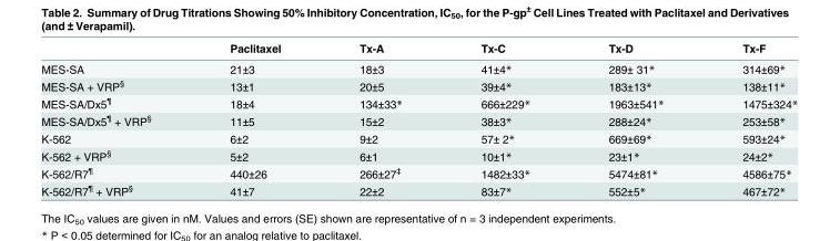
<table><thead><tr><td></td><td>Paclitaxel</td><td>Tx-A</td><td>Tx-C</td><td>Tx-D</td><td>Tx-F</td></tr></thead><tbody><tr><td>MES-SA</td><td>21±3</td><td>18±3</td><td>41±4*</td><td>289± 31*</td><td>314±69*</td></tr><tr><td>MES-SA + VRP<sup>§</sup></td><td>13±1</td><td>20±5</td><td>39±4*</td><td>183±13*</td><td>138±11*</td></tr><tr><td>MES-SA/Dx5<sup>¶</sup></td><td>18±4</td><td>134±33*</td><td>666±229*</td><td>1963±541*</td><td>1475±324*</td></tr><tr><td>MES-SA/Dx5<sup>¶</sup> + VRP<sup>§</sup></td><td>11±5</td><td>15±2</td><td>38±3*</td><td>288±24*</td><td>253±58*</td></tr><tr><td>K-562</td><td>6±2</td><td>9±2</td><td>57± 2*</td><td>669±69*</td><td>593±24*</td></tr><tr><td>K-562 + VRP<sup>§</sup></td><td>5±2</td><td>6±1</td><td>10±1*</td><td>23±1*</td><td>24±2*</td></tr><tr><td>K-562/R7<sup>¶</sup></td><td>440±26</td><td>266±27<sup>‡</sup></td><td>1482±33*</td><td>5474±81*</td><td>4586±75*</td></tr><tr><td>K-562/R7<sup>¶</sup> + VRP<sup>§</sup></td><td>41±7</td><td>22±2</td><td>83±7*</td><td>552±5*</td><td>467±72*</td></tr></tbody></table>